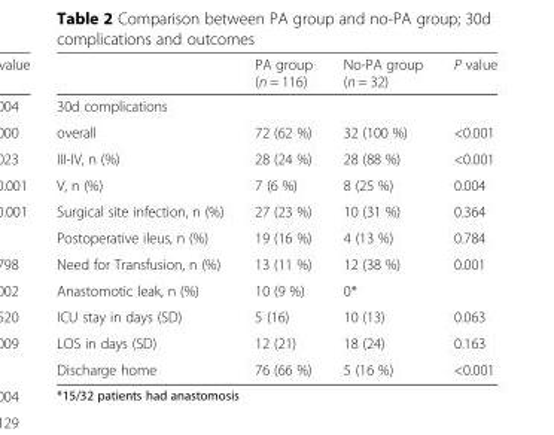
<table><thead><tr><td></td><td>PA group (n = 116)</td><td>No-PA group (n = 32)</td><td>P value</td></tr></thead><tbody><tr><td colspan="4">30d complications</td></tr><tr><td>overall</td><td>72 (62 %)</td><td>32 (100 %)</td><td>&lt;0.001</td></tr><tr><td>III-IV, n (%)</td><td>28 (24 %)</td><td>28 (88 %)</td><td>&lt;0.001</td></tr><tr><td>V, n (%)</td><td>7 (6 %)</td><td>8 (25 %)</td><td>0.004</td></tr><tr><td>Surgical site infection, n (%)</td><td>27 (23 %)</td><td>10 (31 %)</td><td>0.364</td></tr><tr><td>Postoperative ileus, n (%)</td><td>19 (16 %)</td><td>4 (13 %)</td><td>0.784</td></tr><tr><td>Need for Transfusion, n (%)</td><td>13 (11 %)</td><td>12 (38 %)</td><td>0.001</td></tr><tr><td>Anastomotic leak, n (%)</td><td>10 (9 %)</td><td>0*</td><td></td></tr><tr><td>ICU stay in days (SD)</td><td>5 (16)</td><td>10 (13)</td><td>0.063</td></tr><tr><td>LOS in days (SD)</td><td>12 (21)</td><td>18 (24)</td><td>0.163</td></tr><tr><td>Discharge home</td><td>76 (66 %)</td><td>5 (16 %)</td><td>&lt;0.001</td></tr></tbody></table>